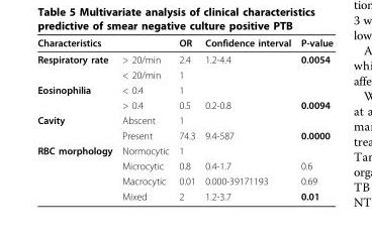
<table><thead><tr><td colspan="2">Characteristics</td><td rowspan="2">OR 2.4</td><td rowspan="2">Confidence interval 1.2-4.4</td><td rowspan="2">P-value 0.0054</td></tr><tr><td>Respiratory rate</td><td>&gt; 20/min</td></tr></thead><tbody><tr><td></td><td>&lt; 20/min</td><td>1</td><td></td><td></td></tr><tr><td rowspan="2">Eosinophilia</td><td>&lt; 0.4</td><td>1</td><td></td><td></td></tr><tr><td>&gt; 0.4</td><td>0.5</td><td>0.2-0.8</td><td>0.0094</td></tr><tr><td rowspan="2">Cavity</td><td>Abscent</td><td>1</td><td></td><td></td></tr><tr><td>Present</td><td>74.3</td><td>9.4-587</td><td>0.0000</td></tr><tr><td rowspan="4">RBC morphology</td><td>Normocytic</td><td>1</td><td></td><td></td></tr><tr><td>Microcytic</td><td>0.8</td><td>0.4-1.7</td><td>0.6</td></tr><tr><td>Macrocytic</td><td>0.01</td><td>0.000-39171193</td><td>0.69</td></tr><tr><td>Mixed</td><td>2</td><td>1.2-3.7</td><td>0.01</td></tr></tbody></table>